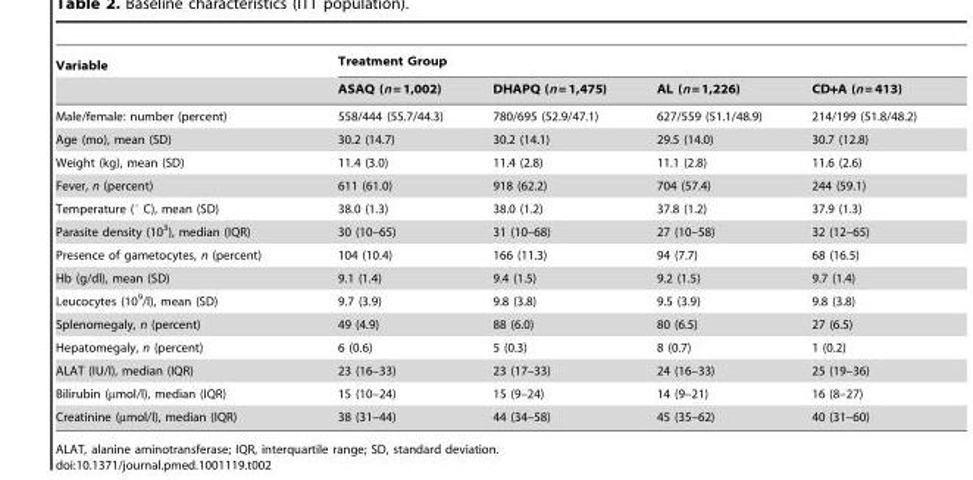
<table><thead><tr><td rowspan="2">Variable</td><td colspan="4">Treatment Group</td></tr><tr><td>ASAQ (n = 1,002)</td><td>DHAPQ (n = 1,475)</td><td>AL (n = 1,226)</td><td>CD+A (n = 413)</td></tr></thead><tbody><tr><td>Male/female: number (percent)</td><td>558/444 (55.7/44.3)</td><td>780/695 (52.9/47.1)</td><td>627/559 (51.1/48.9)</td><td>214/199 (51.8/48.2)</td></tr><tr><td>Age (mo), mean (SD)</td><td>30.2 (14.7)</td><td>30.2 (14.1)</td><td>29.5 (14.0)</td><td>30.7 (12.8)</td></tr><tr><td>Weight (kg), mean (SD)</td><td>11.4 (3.0)</td><td>11.4 (2.8)</td><td>11.1 (2.8)</td><td>11.6 (2.6)</td></tr><tr><td>Fever, n (percent)</td><td>611 (61.0)</td><td>918 (62.2)</td><td>704 (57.4)</td><td>244 (59.1)</td></tr><tr><td>Temperature (° C), mean (SD)</td><td>38.0 (1.3)</td><td>38.0 (1.2)</td><td>37.8 (1.2)</td><td>37.9 (1.3)</td></tr><tr><td>Parasite density (10<sup>3</sup>), median (IQR)</td><td>30 (10–65)</td><td>31 (10–68)</td><td>27 (10–58)</td><td>32 (12–65)</td></tr><tr><td>Presence of gametocytes, n (percent)</td><td>104 (10.4)</td><td>166 (11.3)</td><td>94 (7.7)</td><td>68 (16.5)</td></tr><tr><td>Hb (g/dl), mean (SD)</td><td>9.1 (1.4)</td><td>9.4 (1.5)</td><td>9.2 (1.5)</td><td>9.7 (1.4)</td></tr><tr><td>Leucocytes (10<sup>9</sup>/l), mean (SD)</td><td>9.7 (3.9)</td><td>9.8 (3.8)</td><td>9.5 (3.9)</td><td>9.8 (3.8)</td></tr><tr><td>Splenomegaly, n (percent)</td><td>49 (4.9)</td><td>88 (6.0)</td><td>80 (6.5)</td><td>27 (6.5)</td></tr><tr><td>Hepatomegaly, n (percent)</td><td>6 (0.6)</td><td>5 (0.3)</td><td>8 (0.7)</td><td>1 (0.2)</td></tr><tr><td>ALAT (IU/l), median (IQR)</td><td>23 (16–33)</td><td>23 (17–33)</td><td>24 (16–33)</td><td>25 (19–36)</td></tr><tr><td>Bilirubin (µmol/l), median (IQR)</td><td>15 (10–24)</td><td>15 (9–24)</td><td>14 (9–21)</td><td>16 (8–27)</td></tr><tr><td>Creatinine (µmol/l), median (IQR)</td><td>38 (31–44)</td><td>44 (34–58)</td><td>45 (35–62)</td><td>40 (31–60)</td></tr></tbody></table>